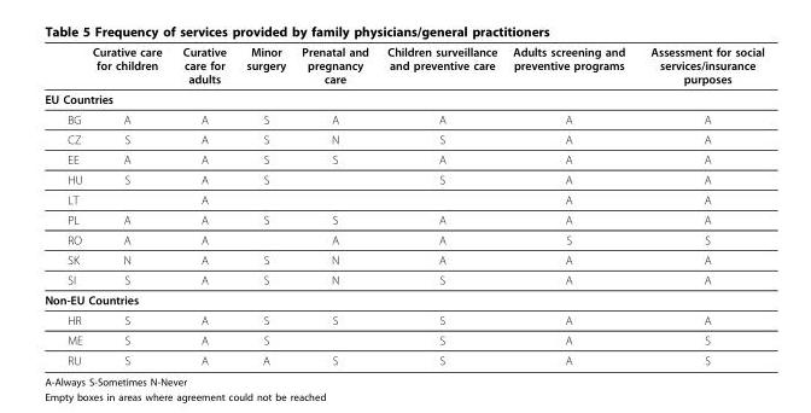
<table><thead><tr><td></td><td>Curative care for children</td><td>Curative care for adults</td><td>Minor surgery</td><td>Prenatal and pregnancy care</td><td>Children surveillance and preventive care</td><td>Adults screening and preventive programs</td><td>Assessment for social services/insurance purposes</td></tr></thead><tbody><tr><td colspan="8">EU Countries</td></tr><tr><td>BG</td><td>A</td><td>A</td><td>S</td><td>A</td><td>A</td><td>A</td><td>A</td></tr><tr><td>CZ</td><td>S</td><td>A</td><td>S</td><td>N</td><td>S</td><td>A</td><td>A</td></tr><tr><td>EE</td><td>A</td><td>A</td><td>S</td><td>S</td><td>A</td><td>A</td><td>A</td></tr><tr><td>HU</td><td>S</td><td>A</td><td>S</td><td></td><td>S</td><td>A</td><td>A</td></tr><tr><td>LT</td><td></td><td>A</td><td></td><td></td><td></td><td>A</td><td>A</td></tr><tr><td>PL</td><td>A</td><td>A</td><td>S</td><td>S</td><td>A</td><td>A</td><td>A</td></tr><tr><td>RO</td><td>A</td><td>A</td><td></td><td>A</td><td>A</td><td>S</td><td>S</td></tr><tr><td>SK</td><td>N</td><td>A</td><td>S</td><td>N</td><td>A</td><td>A</td><td>A</td></tr><tr><td>SI</td><td>S</td><td>A</td><td>S</td><td>N</td><td>S</td><td>A</td><td>A</td></tr><tr><td colspan="8">Non-EU Countries</td></tr><tr><td>HR</td><td>S</td><td>A</td><td>S</td><td>S</td><td>S</td><td>A</td><td>A</td></tr><tr><td>ME</td><td>S</td><td>A</td><td>S</td><td></td><td>S</td><td>A</td><td>S</td></tr><tr><td>RU</td><td>S</td><td>A</td><td>A</td><td>S</td><td>S</td><td>A</td><td>S</td></tr></tbody></table>